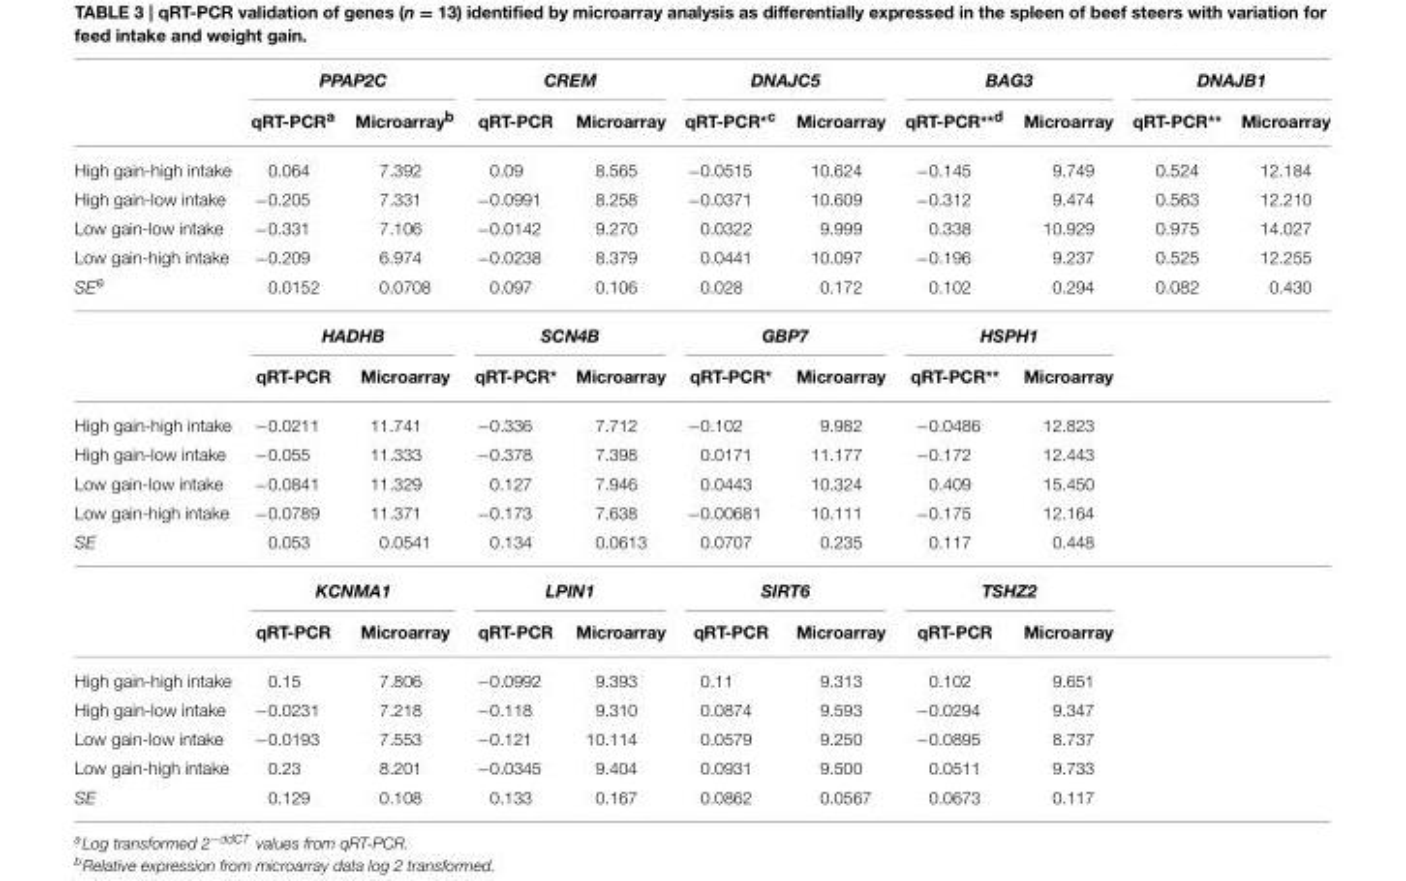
<table><thead><tr><td rowspan="2"></td><td colspan="2">PPAP2C</td><td colspan="2">CREM</td><td colspan="2">DNAJC5</td><td colspan="2">BAG3</td><td colspan="2">DNAJB1</td></tr><tr><td>qRT-PCR<sup>a</sup></td><td>Microarray<sup>b</sup></td><td>qRT-PCR</td><td>Microarray</td><td>qRT-PCR<sup>*c</sup></td><td>Microarray</td><td>qRT-PCR<sup>**d</sup></td><td>Microarray</td><td>qRT-PCR**</td><td>Microarray</td></tr></thead><tbody><tr><td>High gain-high intake</td><td>0.064</td><td>7.392</td><td>0.09</td><td>8.565</td><td>−0.0515</td><td>10.624</td><td>−0.145</td><td>9.749</td><td>0.524</td><td>12.184</td></tr><tr><td>High gain-low intake</td><td>−0.205</td><td>7.331</td><td>−0.0991</td><td>8.258</td><td>−0.0371</td><td>10.609</td><td>−0.312</td><td>9.474</td><td>0.563</td><td>12.210</td></tr><tr><td>Low gain-low intake</td><td>−0.331</td><td>7.106</td><td>−0.0142</td><td>9.270</td><td>0.0322</td><td>9.999</td><td>0.338</td><td>10.929</td><td>0.975</td><td>14.027</td></tr><tr><td>Low gain-high intake</td><td>−0.209</td><td>6.974</td><td>−0.0238</td><td>8.379</td><td>0.0441</td><td>10.097</td><td>−0.196</td><td>9.237</td><td>0.525</td><td>12.255</td></tr><tr><td rowspan="3">SE<sup>e</sup></td><td>0.0152</td><td>0.0708</td><td>0.097</td><td>0.106</td><td>0.028</td><td>0.172</td><td>0.102</td><td>0.294</td><td>0.082</td><td>0.430</td></tr><tr><td colspan="2">HADHB</td><td colspan="2">SCN4B</td><td colspan="2">GBP7</td><td colspan="2">HSPH1</td><td colspan="2"></td></tr><tr><td>qRT-PCR</td><td>Microarray</td><td>qRT-PCR*</td><td>Microarray</td><td>qRT-PCR*</td><td>Microarray</td><td>qRT-PCR**</td><td>Microarray</td><td colspan="2"></td></tr><tr><td>High gain-high intake</td><td>−0.0211</td><td>11.741</td><td>−0.336</td><td>7.712</td><td>−0.102</td><td>9.982</td><td>−0.0486</td><td>12.823</td><td colspan="2"></td></tr><tr><td>High gain-low intake</td><td>−0.055</td><td>11.333</td><td>−0.378</td><td>7.398</td><td>0.0171</td><td>11.177</td><td>−0.172</td><td>12.443</td><td colspan="2"></td></tr><tr><td>Low gain-low intake</td><td>−0.0841</td><td>11.329</td><td>0.127</td><td>7.946</td><td>0.0443</td><td>10.324</td><td>0.409</td><td>15.450</td><td colspan="2"></td></tr><tr><td>Low gain-high intake</td><td>−0.0789</td><td>11.371</td><td>−0.173</td><td>7.638</td><td>−0.00681</td><td>10.111</td><td>−0.175</td><td>12.164</td><td colspan="2"></td></tr><tr><td rowspan="3">SE</td><td>0.053</td><td>0.0541</td><td>0.134</td><td>0.0613</td><td>0.0707</td><td>0.235</td><td>0.117</td><td>0.448</td><td colspan="2"></td></tr><tr><td colspan="2">KCNMA1</td><td colspan="2">LPIN1</td><td colspan="2">SIRT6</td><td colspan="2">TSHZ2</td><td colspan="2"></td></tr><tr><td>qRT-PCR</td><td>Microarray</td><td>qRT-PCR</td><td>Microarray</td><td>qRT-PCR</td><td>Microarray</td><td>qRT-PCR</td><td>Microarray</td><td colspan="2"></td></tr><tr><td>High gain-high intake</td><td>0.15</td><td>7.806</td><td>−0.0992</td><td>9.393</td><td>0.11</td><td>9.313</td><td>0.102</td><td>9.651</td><td colspan="2"></td></tr><tr><td>High gain-low intake</td><td>−0.0231</td><td>7.218</td><td>−0.118</td><td>9.310</td><td>0.0874</td><td>9.593</td><td>−0.0294</td><td>9.347</td><td colspan="2"></td></tr><tr><td>Low gain-low intake</td><td>−0.0193</td><td>7.553</td><td>−0.121</td><td>10.114</td><td>0.0579</td><td>9.250</td><td>−0.0895</td><td>8.737</td><td colspan="2"></td></tr><tr><td>Low gain-high intake</td><td>0.23</td><td>8.201</td><td>−0.0345</td><td>9.404</td><td>0.0931</td><td>9.500</td><td>0.0511</td><td>9.733</td><td colspan="2"></td></tr><tr><td>SE</td><td>0.129</td><td>0.108</td><td>0.133</td><td>0.167</td><td>0.0862</td><td>0.0567</td><td>0.0673</td><td>0.117</td><td colspan="2"></td></tr></tbody></table>